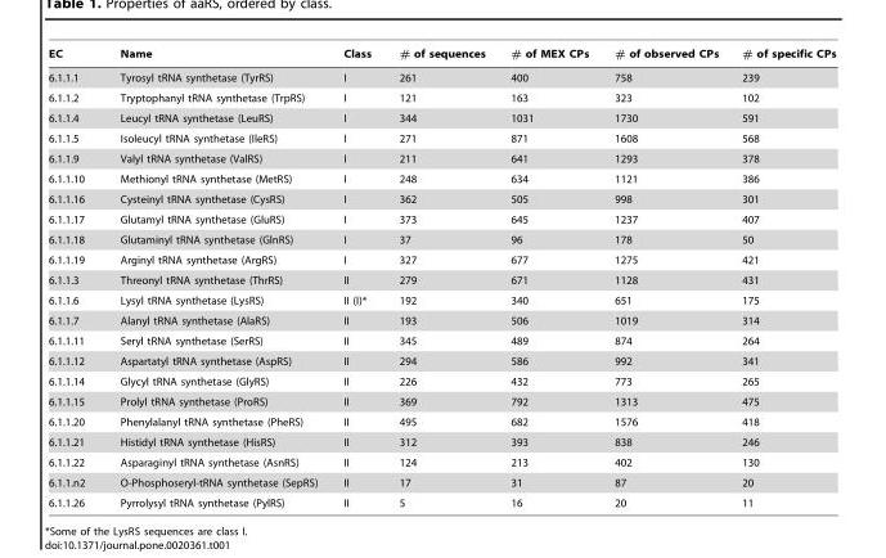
<table><thead><tr><td>EC</td><td>Name</td><td>Class</td><td># of sequences</td><td># of MEX CPs</td><td># of observed CPs</td><td># of specific CPs</td></tr></thead><tbody><tr><td>6.1.1.1</td><td>Tyrosyl tRNA synthetase (TyrRS)</td><td>I</td><td>261</td><td>400</td><td>758</td><td>239</td></tr><tr><td>6.1.1.2</td><td>Tryptophanyl tRNA synthetase (TrpRS)</td><td>I</td><td>121</td><td>163</td><td>323</td><td>102</td></tr><tr><td>6.1.1.4</td><td>Leucyl tRNA synthetase (LeuRS)</td><td>I</td><td>344</td><td>1031</td><td>1730</td><td>591</td></tr><tr><td>6.1.1.5</td><td>Isoleucyl tRNA synthetase (IleRS)</td><td>I</td><td>271</td><td>871</td><td>1608</td><td>568</td></tr><tr><td>6.1.1.9</td><td>Valyl tRNA synthetase (ValRS)</td><td>I</td><td>211</td><td>641</td><td>1293</td><td>378</td></tr><tr><td>6.1.1.10</td><td>Methionyl tRNA synthetase (MetRS)</td><td>I</td><td>248</td><td>634</td><td>1121</td><td>386</td></tr><tr><td>6.1.1.16</td><td>Cysteinyl tRNA synthetase (CysRS)</td><td>I</td><td>362</td><td>505</td><td>998</td><td>301</td></tr><tr><td>6.1.1.17</td><td>Glutamyl tRNA synthetase (GluRS)</td><td>I</td><td>373</td><td>645</td><td>1237</td><td>407</td></tr><tr><td>6.1.1.18</td><td>Glutaminyl tRNA synthetase (GlnRS)</td><td>I</td><td>37</td><td>96</td><td>178</td><td>50</td></tr><tr><td>6.1.1.19</td><td>Arginyl tRNA synthetase (ArgRS)</td><td>I</td><td>327</td><td>677</td><td>1275</td><td>421</td></tr><tr><td>6.1.1.3</td><td>Threonyl tRNA synthetase (ThrRS)</td><td>II</td><td>279</td><td>671</td><td>1128</td><td>431</td></tr><tr><td>6.1.1.6</td><td>Lysyl tRNA synthetase (LysRS)</td><td>II (I)*</td><td>192</td><td>340</td><td>651</td><td>175</td></tr><tr><td>6.1.1.7</td><td>Alanyl tRNA synthetase (AlaRS)</td><td>II</td><td>193</td><td>506</td><td>1019</td><td>314</td></tr><tr><td>6.1.1.11</td><td>Seryl tRNA synthetase (SerRS)</td><td>II</td><td>345</td><td>489</td><td>874</td><td>264</td></tr><tr><td>6.1.1.12</td><td>Aspartatyl tRNA synthetase (AspRS)</td><td>II</td><td>294</td><td>586</td><td>992</td><td>341</td></tr><tr><td>6.1.1.14</td><td>Glycyl tRNA synthetase (GlyRS)</td><td>II</td><td>226</td><td>432</td><td>773</td><td>265</td></tr><tr><td>6.1.1.15</td><td>Prolyl tRNA synthetase (ProRS)</td><td>II</td><td>369</td><td>792</td><td>1313</td><td>475</td></tr><tr><td>6.1.1.20</td><td>Phenylalanyl tRNA synthetase (PheRS)</td><td>II</td><td>495</td><td>682</td><td>1576</td><td>418</td></tr><tr><td>6.1.1.21</td><td>Histidyl tRNA synthetase (HisRS)</td><td>II</td><td>312</td><td>393</td><td>838</td><td>246</td></tr><tr><td>6.1.1.22</td><td>Asparaginyl tRNA synthetase (AsnRS)</td><td>II</td><td>124</td><td>213</td><td>402</td><td>130</td></tr><tr><td>6.1.1.n2</td><td>O-Phosphoseryl-tRNA synthetase (SepRS)</td><td>II</td><td>17</td><td>31</td><td>87</td><td>20</td></tr><tr><td>6.1.1.26</td><td>Pyrrolysyl tRNA synthetase (PylRS)</td><td>II</td><td>5</td><td>16</td><td>20</td><td>11</td></tr></tbody></table>